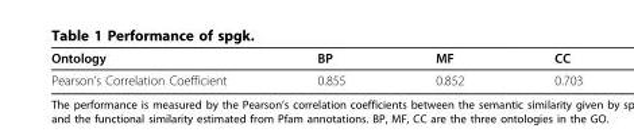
<table><thead><tr><td>Ontology</td><td>BP</td><td>MF</td><td>CC</td></tr></thead><tbody><tr><td>Pearson’s Correlation Coefficient</td><td>0.855</td><td>0.852</td><td>0.703</td></tr></tbody></table>